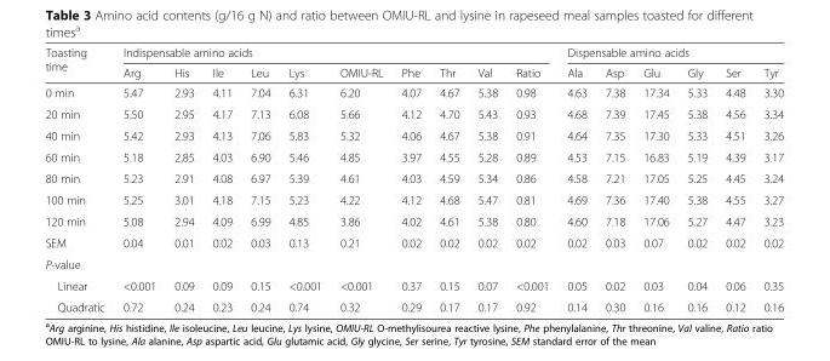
<table><thead><tr><td rowspan="2">Toasting time</td><td colspan="10">Indispensable amino acids</td><td colspan="6">Dispensable amino acids</td></tr><tr><td>Arg</td><td>His</td><td>Ile</td><td>Leu</td><td>Lys</td><td>OMIU-RL</td><td>Phe</td><td>Thr</td><td>Val</td><td>Ratio</td><td>Ala</td><td>Asp</td><td>Glu</td><td>Gly</td><td>Ser</td><td>Tyr</td></tr></thead><tbody><tr><td>0 min</td><td>5.47</td><td>2.93</td><td>4.11</td><td>7.04</td><td>6.31</td><td>6.20</td><td>4.07</td><td>4.67</td><td>5.38</td><td>0.98</td><td>4.63</td><td>7.38</td><td>17.34</td><td>5.33</td><td>4.48</td><td>3.30</td></tr><tr><td>20 min</td><td>5.50</td><td>2.95</td><td>4.17</td><td>7.13</td><td>6.08</td><td>5.66</td><td>4.12</td><td>4.70</td><td>5.43</td><td>0.93</td><td>4.68</td><td>7.39</td><td>17.45</td><td>5.38</td><td>4.56</td><td>3.34</td></tr><tr><td>40 min</td><td>5.42</td><td>2.93</td><td>4.13</td><td>7.06</td><td>5.83</td><td>5.32</td><td>4.06</td><td>4.67</td><td>5.38</td><td>0.91</td><td>4.64</td><td>7.35</td><td>17.30</td><td>5.33</td><td>4.51</td><td>3.26</td></tr><tr><td>60 min</td><td>5.18</td><td>2.85</td><td>4.03</td><td>6.90</td><td>5.46</td><td>4.85</td><td>3.97</td><td>4.55</td><td>5.28</td><td>0.89</td><td>4.53</td><td>7.15</td><td>16.83</td><td>5.19</td><td>4.39</td><td>3.17</td></tr><tr><td>80 min</td><td>5.23</td><td>2.91</td><td>4.08</td><td>6.97</td><td>5.39</td><td>4.61</td><td>4.03</td><td>4.59</td><td>5.34</td><td>0.86</td><td>4.58</td><td>7.21</td><td>17.05</td><td>5.25</td><td>4.45</td><td>3.24</td></tr><tr><td>100 min</td><td>5.25</td><td>3.01</td><td>4.18</td><td>7.15</td><td>5.23</td><td>4.22</td><td>4.12</td><td>4.68</td><td>5.47</td><td>0.81</td><td>4.69</td><td>7.36</td><td>17.40</td><td>5.38</td><td>4.55</td><td>3.27</td></tr><tr><td>120 min</td><td>5.08</td><td>2.94</td><td>4.09</td><td>6.99</td><td>4.85</td><td>3.86</td><td>4.02</td><td>4.61</td><td>5.38</td><td>0.80</td><td>4.60</td><td>7.18</td><td>17.06</td><td>5.27</td><td>4.47</td><td>3.23</td></tr><tr><td>SEM</td><td>0.04</td><td>0.01</td><td>0.02</td><td>0.03</td><td>0.13</td><td>0.21</td><td>0.02</td><td>0.02</td><td>0.02</td><td>0.02</td><td>0.02</td><td>0.03</td><td>0.07</td><td>0.02</td><td>0.02</td><td>0.02</td></tr><tr><td colspan="17">P-value</td></tr><tr><td>Linear</td><td>&lt;0.001</td><td>0.09</td><td>0.09</td><td>0.15</td><td>&lt;0.001</td><td>&lt;0.001</td><td>0.37</td><td>0.15</td><td>0.07</td><td>&lt;0.001</td><td>0.05</td><td>0.02</td><td>0.03</td><td>0.04</td><td>0.06</td><td>0.35</td></tr><tr><td>Quadratic</td><td>0.72</td><td>0.24</td><td>0.23</td><td>0.24</td><td>0.74</td><td>0.32</td><td>0.29</td><td>0.17</td><td>0.17</td><td>0.92</td><td>0.14</td><td>0.30</td><td>0.16</td><td>0.16</td><td>0.12</td><td>0.16</td></tr></tbody></table>